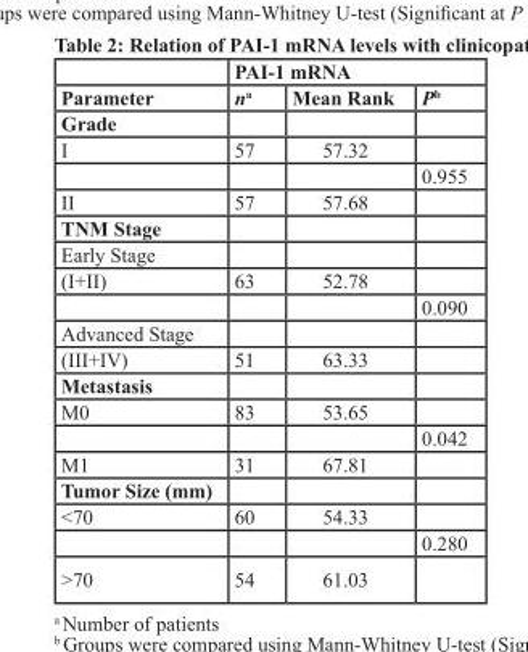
<table><thead><tr><td rowspan="2">Parameter</td><td colspan="3">PAI-1 mrNA</td></tr><tr><td>n<sup>a</sup></td><td>Mean rank</td><td>P<sup>b</sup></td></tr></thead><tbody><tr><td colspan="4">Grade</td></tr><tr><td rowspan="2">I</td><td>57</td><td>57.32</td><td></td></tr><tr><td></td><td></td><td>0.955</td></tr><tr><td>II</td><td>57</td><td>57.68</td><td></td></tr><tr><td colspan="4">tNM stage</td></tr><tr><td colspan="4">Early Stage</td></tr><tr><td rowspan="2">(I+II)</td><td>63</td><td>52.78</td><td></td></tr><tr><td></td><td></td><td>0.090</td></tr><tr><td colspan="4">Advanced Stage</td></tr><tr><td>(III+IV)</td><td>51</td><td>63.33</td><td></td></tr><tr><td colspan="4">Metastasis</td></tr><tr><td rowspan="2">M0</td><td>83</td><td>53.65</td><td></td></tr><tr><td></td><td></td><td>0.042</td></tr><tr><td>M1</td><td>31</td><td>67.81</td><td></td></tr><tr><td colspan="4">tumor size (mm)</td></tr><tr><td rowspan="2">&lt;70</td><td>60</td><td>54.33</td><td></td></tr><tr><td></td><td></td><td>0.280</td></tr><tr><td>&gt;70</td><td>54</td><td>61.03</td><td></td></tr></tbody></table>